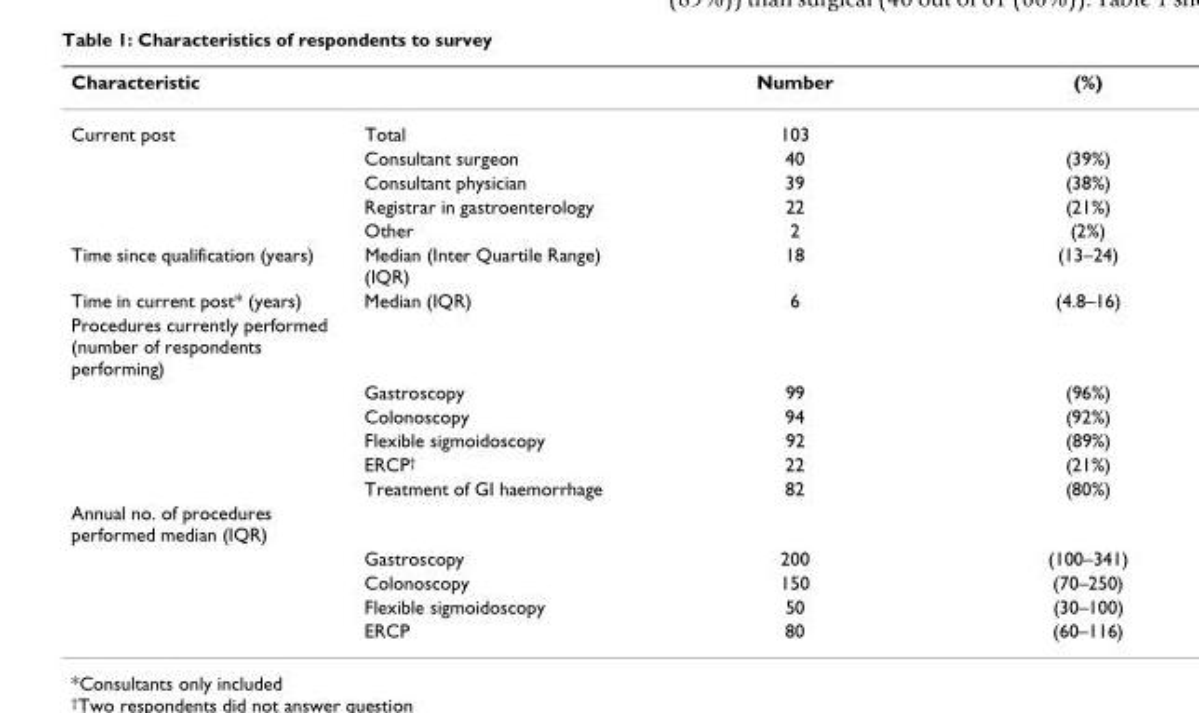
<table><thead><tr><td>Characteristic</td><td></td><td>Number</td><td>(%)</td></tr></thead><tbody><tr><td rowspan="5">Current post</td><td>Total</td><td>103</td><td></td></tr><tr><td>Consultant surgeon</td><td>40</td><td>(39%)</td></tr><tr><td>Consultant physician</td><td>39</td><td>(38%)</td></tr><tr><td>Registrar in gastroenterology</td><td>22</td><td>(21%)</td></tr><tr><td>Other</td><td>2</td><td>(2%)</td></tr><tr><td>Time since qualification (years)</td><td>Median (Inter Quartile Range) (IQR)</td><td>18</td><td>(13–24)</td></tr><tr><td>Time in current post* (years)</td><td>Median (IQR)</td><td>6</td><td>(4.8–16)</td></tr><tr><td colspan="4">Procedures currently performed (number of respondents performing)</td></tr><tr><td></td><td>Gastroscopy</td><td>99</td><td>(96%)</td></tr><tr><td></td><td>Colonoscopy</td><td>94</td><td>(92%)</td></tr><tr><td></td><td>Flexible sigmoidoscopy</td><td>92</td><td>(89%)</td></tr><tr><td></td><td>ERCP<sup>†</sup></td><td>22</td><td>(21%)</td></tr><tr><td></td><td>Treatment of GI haemorrhage</td><td>82</td><td>(80%)</td></tr><tr><td colspan="4">Annual no. of procedures performed median (IQR)</td></tr><tr><td></td><td>Gastroscopy</td><td>200</td><td>(100–341)</td></tr><tr><td></td><td>Colonoscopy</td><td>150</td><td>(70–250)</td></tr><tr><td></td><td>Flexible sigmoidoscopy</td><td>50</td><td>(30–100)</td></tr><tr><td></td><td>ERCP</td><td>80</td><td>(60–116)</td></tr></tbody></table>